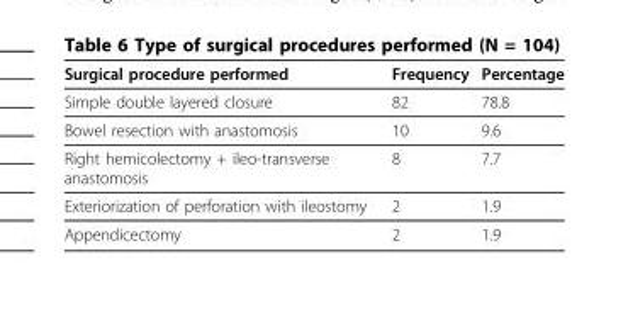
<table><thead><tr><td>Surgical procedure performed</td><td>Frequency</td><td>Percentage</td></tr></thead><tbody><tr><td>Simple double layered closure</td><td>82</td><td>78.8</td></tr><tr><td>Bowel resection with anastomosis</td><td>10</td><td>9.6</td></tr><tr><td>Right hemicolectomy + ileo-transverse anastomosis</td><td>8</td><td>7.7</td></tr><tr><td>Exteriorization of perforation with ileostomy</td><td>2</td><td>1.9</td></tr><tr><td>Appendicectomy</td><td>2</td><td>1.9</td></tr></tbody></table>